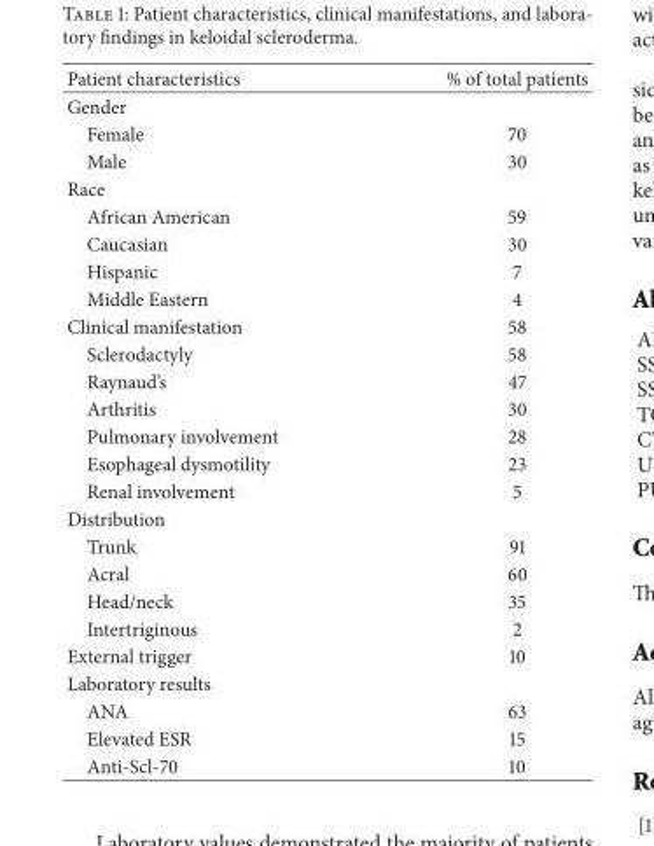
<table><thead><tr><td>Patient characteristics</td><td>% of total patients</td></tr></thead><tbody><tr><td colspan="2">Gender</td></tr><tr><td>Female</td><td>70</td></tr><tr><td>Male</td><td>30</td></tr><tr><td colspan="2">Race</td></tr><tr><td>African American</td><td>59</td></tr><tr><td>Caucasian</td><td>30</td></tr><tr><td>Hispanic</td><td>7</td></tr><tr><td>Middle Eastern</td><td>4</td></tr><tr><td>Clinical manifestation</td><td>58</td></tr><tr><td>Sclerodactyly</td><td>58</td></tr><tr><td>Raynaud’s</td><td>47</td></tr><tr><td>Arthritis</td><td>30</td></tr><tr><td>Pulmonary involvement</td><td>28</td></tr><tr><td>Esophageal dysmotility</td><td>23</td></tr><tr><td>Renal involvement</td><td>5</td></tr><tr><td colspan="2">Distribution</td></tr><tr><td>Trunk</td><td>91</td></tr><tr><td>Acral</td><td>60</td></tr><tr><td>Head/neck</td><td>35</td></tr><tr><td>Intertriginous</td><td>2</td></tr><tr><td>External trigger</td><td>10</td></tr><tr><td colspan="2">Laboratory results</td></tr><tr><td>ANA</td><td>63</td></tr><tr><td>Elevated ESR</td><td>15</td></tr><tr><td>Anti-Scl-70</td><td>10</td></tr></tbody></table>